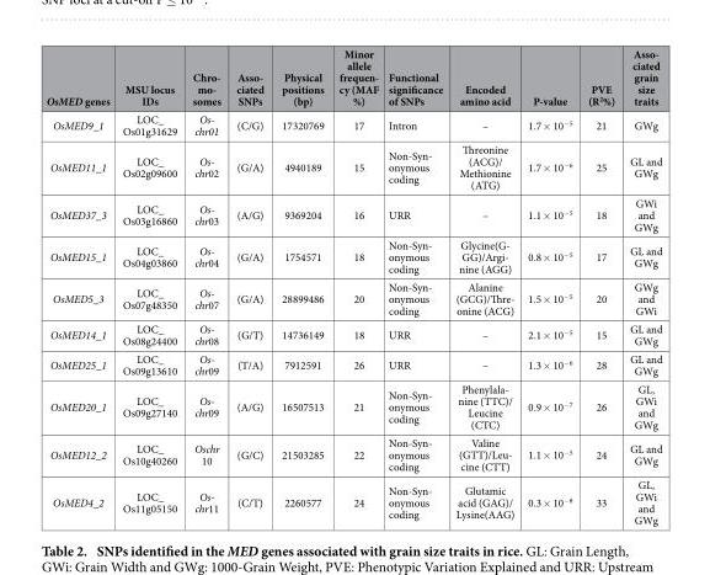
<table><thead><tr><td>OsMED genes</td><td>MSU locus IDs</td><td>Chro- mo- somes</td><td>Asso- ciated SNPs</td><td>Physical positions (bp)</td><td>Minor allele frequen- cy (MAF %)</td><td>Functional significance of SNPs</td><td>Encoded amino acid</td><td>P-value</td><td>PVE (R<sup>2</sup>%)</td><td>Asso- ciated grain size traits</td></tr></thead><tbody><tr><td>OsMED9_1</td><td>LOC_ Os01g31629</td><td>Os- chr01</td><td>(C/G)</td><td>17320769</td><td>17</td><td>Intron</td><td>–</td><td>1.7 × 10<sup>−5</sup></td><td>21</td><td>GWg</td></tr><tr><td>OsMED11_1</td><td>LOC_ Os02g09600</td><td>Os- chr02</td><td>(G/A)</td><td>4940189</td><td>15</td><td>Non-Syn- onymous coding</td><td>Threonine (ACG)/ Methionine (ATG)</td><td>1.7 × 10<sup>−6</sup></td><td>25</td><td>GL and GWg</td></tr><tr><td>OsMED37_3</td><td>LOC_ Os03g16860</td><td>Os- chr03</td><td>(A/G)</td><td>9369204</td><td>16</td><td>URR</td><td>–</td><td>1.1 × 10<sup>−5</sup></td><td>18</td><td>GWi and GWg</td></tr><tr><td>OsMED15_1</td><td>LOC_ Os04g03860</td><td>Os- chr04</td><td>(G/A)</td><td>1754571</td><td>18</td><td>Non-Syn- onymous coding</td><td>Glycine(G- GG)/Argi- nine (AGG)</td><td>0.8 × 10<sup>−5</sup></td><td>17</td><td>GL and GWg</td></tr><tr><td>OsMED5_3</td><td>LOC_ Os07g48350</td><td>Os- chr07</td><td>(G/A)</td><td>28899486</td><td>20</td><td>Non-Syn- onymous coding</td><td>Alanine (GCG)/Thre- onine (ACG)</td><td>1.5 × 10<sup>−5</sup></td><td>20</td><td>GWg and GWi</td></tr><tr><td>OsMED14_1</td><td>LOC_ Os08g24400</td><td>Os- chr08</td><td>(G/T)</td><td>14736149</td><td>18</td><td>URR</td><td>–</td><td>2.1 × 10<sup>−5</sup></td><td>15</td><td>GL and GWg</td></tr><tr><td>OsMED25_1</td><td>LOC_ Os09g13610</td><td>Os- chr09</td><td>(T/A)</td><td>7912591</td><td>26</td><td>URR</td><td>–</td><td>1.3 × 10<sup>−6</sup></td><td>28</td><td>GL and GWg</td></tr><tr><td>OsMED20_1</td><td>LOC_ Os09g27140</td><td>Os- chr09</td><td>(A/G)</td><td>16507513</td><td>21</td><td>Non-Syn- onymous coding</td><td>Phenylala- nine (TTC)/ Leucine (CTC)</td><td>0.9 × 10<sup>−7</sup></td><td>26</td><td>GL, GWi and GWg</td></tr><tr><td>OsMED12_2</td><td>LOC_ Os10g40260</td><td>Oschr 10</td><td>(G/C)</td><td>21503285</td><td>22</td><td>Non-Syn- onymous coding</td><td>Valine (GTT)/Leu- cine (CTT)</td><td>1.1 × 10<sup>−5</sup></td><td>24</td><td>GL and GWg</td></tr><tr><td>OsMED4_2</td><td>LOC_ Os11g05150</td><td>Os- chr11</td><td>(C/T)</td><td>2260577</td><td>24</td><td>Non-Syn- onymous coding</td><td>Glutamic acid (GAG)/ Lysine(AAG)</td><td>0.3 × 10<sup>−8</sup></td><td>33</td><td>GL, GWi and GWg</td></tr></tbody></table>